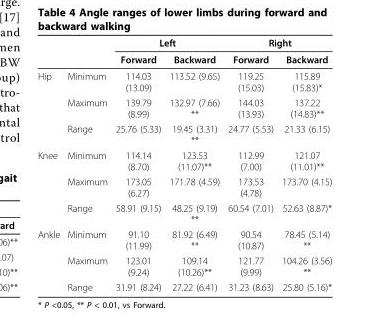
<table><thead><tr><td rowspan="2"></td><td rowspan="2"></td><td colspan="2">Left</td><td colspan="2">Right</td></tr><tr><td>Forward</td><td>Backward</td><td>Forward</td><td>Backward</td></tr></thead><tbody><tr><td rowspan="3">Hip</td><td>Minimum</td><td>114.03 (13.09)</td><td>113.52 (9.65)</td><td>119.25 (15.03)</td><td>115.89 (15.83)*</td></tr><tr><td>Maximum</td><td>139.79 (8.99)</td><td>132.97 (7.66) **</td><td>144.03 (13.93)</td><td>137.22 (14.83)**</td></tr><tr><td>Range</td><td>25.76 (5.33)</td><td>19.45 (3.31) **</td><td>24.77 (5.53)</td><td>21.33 (6.15)</td></tr><tr><td rowspan="3">Knee</td><td>Minimum</td><td>114.14 (8.70)</td><td>123.53 (11.07)**</td><td>112.99 (7.00)</td><td>121.07 (11.01)**</td></tr><tr><td>Maximum</td><td>173.05 (6.27)</td><td>171.78 (4.59)</td><td>173.53 (4.78)</td><td>173.70 (4.15)</td></tr><tr><td>Range</td><td>58.91 (9.15)</td><td>48.25 (9.19) **</td><td>60.54 (7.01)</td><td>52.63 (8.87)*</td></tr><tr><td rowspan="3">Ankle</td><td>Minimum</td><td>91.10 (11.99)</td><td>81.92 (6.49) **</td><td>90.54 (10.87)</td><td>78.45 (5.14) **</td></tr><tr><td>Maximum</td><td>123.01 (9.24)</td><td>109.14 (10.26)**</td><td>121.77 (9.99)</td><td>104.26 (3.56) **</td></tr><tr><td>Range</td><td>31.91 (8.24)</td><td>27.22 (6.41)</td><td>31.23 (8.63)</td><td>25.80 (5.16)*</td></tr></tbody></table>